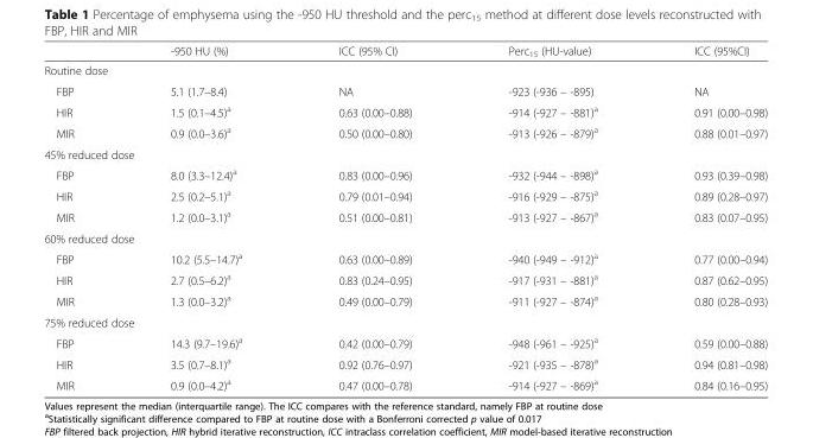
<table><thead><tr><td></td><td>-950 HU (%)</td><td>ICC (95% CI)</td><td>Perc<sub>15</sub> (HU-value)</td><td>ICC (95%CI)</td></tr></thead><tbody><tr><td colspan="5">Routine dose</td></tr><tr><td>FBP</td><td>5.1 (1.7–8.4)</td><td>NA</td><td>-923 (-936 – -895)</td><td>NA</td></tr><tr><td>HIR</td><td>1.5 (0.1–4.5)<sup>a</sup></td><td>0.63 (0.00–0.88)</td><td>-914 (-927 – -881)<sup>a</sup></td><td>0.91 (0.00–0.98)</td></tr><tr><td>MIR</td><td>0.9 (0.0–3.6)<sup>a</sup></td><td>0.50 (0.00–0.80)</td><td>-913 (-926 – -879)<sup>a</sup></td><td>0.88 (0.01–0.97)</td></tr><tr><td colspan="5">45% reduced dose</td></tr><tr><td>FBP</td><td>8.0 (3.3–12.4)<sup>a</sup></td><td>0.83 (0.00–0.96)</td><td>-932 (-944 – -898)<sup>a</sup></td><td>0.93 (0.39–0.98)</td></tr><tr><td>HIR</td><td>2.5 (0.2–5.1)<sup>a</sup></td><td>0.79 (0.01–0.94)</td><td>-916 (-929 – -875)<sup>a</sup></td><td>0.89 (0.28–0.97)</td></tr><tr><td>MIR</td><td>1.2 (0.0–3.1)<sup>a</sup></td><td>0.51 (0.00–0.81)</td><td>-913 (-927 – -867)<sup>a</sup></td><td>0.83 (0.07–0.95)</td></tr><tr><td colspan="5">60% reduced dose</td></tr><tr><td>FBP</td><td>10.2 (5.5–14.7)<sup>a</sup></td><td>0.63 (0.00–0.89)</td><td>-940 (-949 – -912)<sup>a</sup></td><td>0.77 (0.00–0.94)</td></tr><tr><td>HIR</td><td>2.7 (0.5–6.2)<sup>a</sup></td><td>0.83 (0.24–0.95)</td><td>-917 (-931 – -881)<sup>a</sup></td><td>0.87 (0.62–0.95)</td></tr><tr><td>MIR</td><td>1.3 (0.0–3.2)<sup>a</sup></td><td>0.49 (0.00–0.79)</td><td>-911 (-927 – -874)<sup>a</sup></td><td>0.80 (0.28–0.93)</td></tr><tr><td colspan="5">75% reduced dose</td></tr><tr><td>FBP</td><td>14.3 (9.7–19.6)<sup>a</sup></td><td>0.42 (0.00–0.79)</td><td>-948 (-961 – -925)<sup>a</sup></td><td>0.59 (0.00–0.88)</td></tr><tr><td>HIR</td><td>3.5 (0.7–8.1)<sup>a</sup></td><td>0.92 (0.76–0.97)</td><td>-921 (-935 – -878)<sup>a</sup></td><td>0.94 (0.81–0.98)</td></tr><tr><td>MIR</td><td>0.9 (0.0–4.2)<sup>a</sup></td><td>0.47 (0.00–0.78)</td><td>-914 (-927 – -869)<sup>a</sup></td><td>0.84 (0.16–0.95)</td></tr></tbody></table>